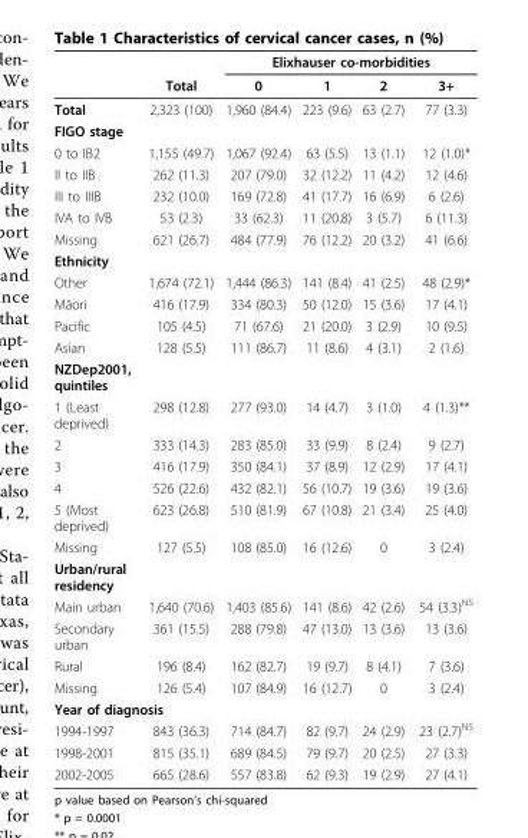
<table><thead><tr><td rowspan="2"></td><td rowspan="2">Total</td><td colspan="4">Elixhauser co-morbidities</td></tr><tr><td>0</td><td>1</td><td>2</td><td>3+</td></tr></thead><tbody><tr><td>Total</td><td>2,323 (100)</td><td>1,960 (84.4)</td><td>223 (9.6)</td><td>63 (2.7)</td><td>77 (3.3)</td></tr><tr><td colspan="6">FIGO stage</td></tr><tr><td>0 to IB2</td><td>1,155 (49.7)</td><td>1,067 (92.4)</td><td>63 (5.5)</td><td>13 (1.1)</td><td>12 (1.0)*</td></tr><tr><td>II to IIB</td><td>262 (11.3)</td><td>207 (79.0)</td><td>32 (12.2)</td><td>11 (4.2)</td><td>12 (4.6)</td></tr><tr><td>III to IIIB</td><td>232 (10.0)</td><td>169 (72.8)</td><td>41 (17.7)</td><td>16 (6.9)</td><td>6 (2.6)</td></tr><tr><td>IVA to IVB</td><td>53 (2.3)</td><td>33 (62.3)</td><td>11 (20.8)</td><td>3 (5.7)</td><td>6 (11.3)</td></tr><tr><td>Missing</td><td>621 (26.7)</td><td>484 (77.9)</td><td>76 (12.2)</td><td>20 (3.2)</td><td>41 (6.6)</td></tr><tr><td colspan="6">Ethnicity</td></tr><tr><td>Other</td><td>1,674 (72.1)</td><td>1,444 (86.3)</td><td>141 (8.4)</td><td>41 (2.5)</td><td>48 (2.9)*</td></tr><tr><td>Māori</td><td>416 (17.9)</td><td>334 (80.3)</td><td>50 (12.0)</td><td>15 (3.6)</td><td>17 (4.1)</td></tr><tr><td>Pacific</td><td>105 (4.5)</td><td>71 (67.6)</td><td>21 (20.0)</td><td>3 (2.9)</td><td>10 (9.5)</td></tr><tr><td>Asian</td><td>128 (5.5)</td><td>111 (86.7)</td><td>11 (8.6)</td><td>4 (3.1)</td><td>2 (1.6)</td></tr><tr><td colspan="6">NZDep2001, quintiles</td></tr><tr><td>1 (Least deprived)</td><td>298 (12.8)</td><td>277 (93.0)</td><td>14 (4.7)</td><td>3 (1.0)</td><td>4 (1.3)**</td></tr><tr><td>2</td><td>333 (14.3)</td><td>283 (85.0)</td><td>33 (9.9)</td><td>8 (2.4)</td><td>9 (2.7)</td></tr><tr><td>3</td><td>416 (17.9)</td><td>350 (84.1)</td><td>37 (8.9)</td><td>12 (2.9)</td><td>17 (4.1)</td></tr><tr><td>4</td><td>526 (22.6)</td><td>432 (82.1)</td><td>56 (10.7)</td><td>19 (3.6)</td><td>19 (3.6)</td></tr><tr><td>5 (Most deprived)</td><td>623 (26.8)</td><td>510 (81.9)</td><td>67 (10.8)</td><td>21 (3.4)</td><td>25 (4.0)</td></tr><tr><td>Missing</td><td>127 (5.5)</td><td>108 (85.0)</td><td>16 (12.6)</td><td>0</td><td>3 (2.4)</td></tr><tr><td colspan="6">Urban/rural residency</td></tr><tr><td>Main urban</td><td>1,640 (70.6)</td><td>1,403 (85.6)</td><td>141 (8.6)</td><td>42 (2.6)</td><td>54 (3.3)<sup>NS</sup></td></tr><tr><td>Secondary urban</td><td>361 (15.5)</td><td>288 (79.8)</td><td>47 (13.0)</td><td>13 (3.6)</td><td>13 (3.6)</td></tr><tr><td>Rural</td><td>196 (8.4)</td><td>162 (82.7)</td><td>19 (9.7)</td><td>8 (4.1)</td><td>7 (3.6)</td></tr><tr><td>Missing</td><td>126 (5.4)</td><td>107 (84.9)</td><td>16 (12.7)</td><td>0</td><td>3 (2.4)</td></tr><tr><td colspan="6">Year of diagnosis</td></tr><tr><td>1994-1997</td><td>843 (36.3)</td><td>714 (84.7)</td><td>82 (9.7)</td><td>24 (2.9)</td><td>23 (2.7)<sup>NS</sup></td></tr><tr><td>1998-2001</td><td>815 (35.1)</td><td>689 (84.5)</td><td>79 (9.7)</td><td>20 (2.5)</td><td>27 (3.3)</td></tr><tr><td>2002-2005</td><td>665 (28.6)</td><td>557 (83.8)</td><td>62 (9.3)</td><td>19 (2.9)</td><td>27 (4.1)</td></tr></tbody></table>